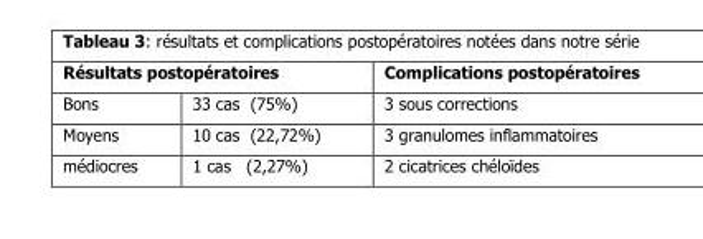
<table><thead><tr><td colspan="2">Résultats postopératoires</td><td rowspan="2">Complications postopératoires 3 sous corrections</td></tr><tr><td>Bons</td><td>33 cas (75%)</td></tr></thead><tbody><tr><td>Moyens</td><td>10 cas (22,72%)</td><td>3 granulomes inflammatoires</td></tr><tr><td>médiocres</td><td>1 cas (2,27%)</td><td>2 cicatrices chéloïdes</td></tr></tbody></table>